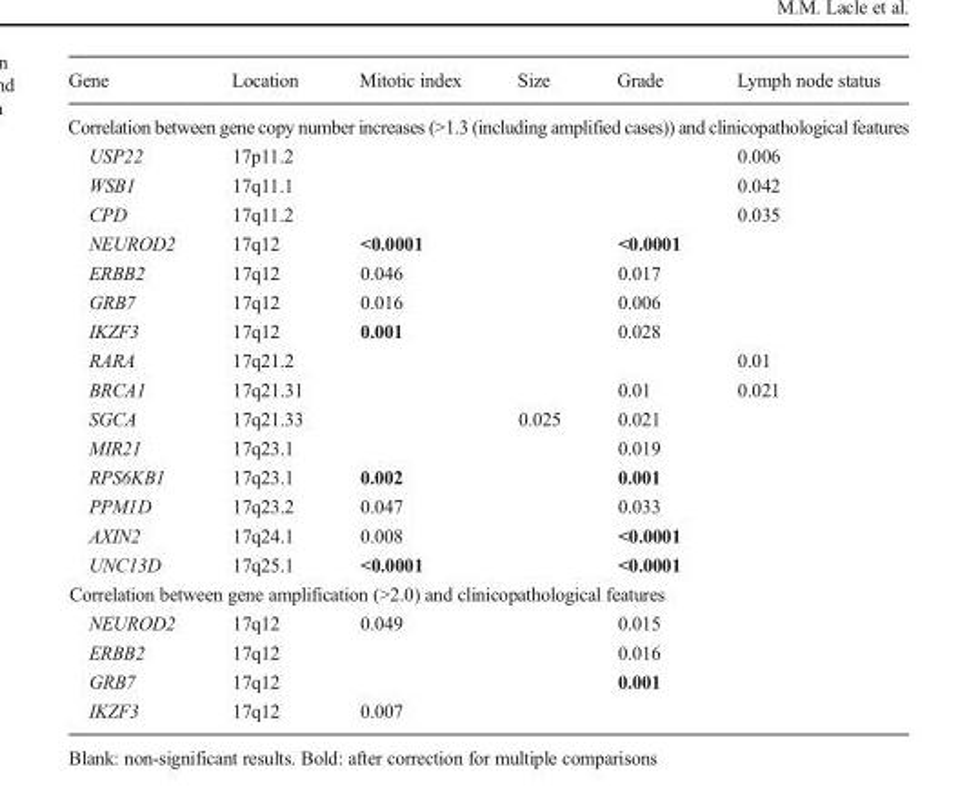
<table><thead><tr><td>Gene</td><td>Location</td><td>Mitotic index</td><td>Size</td><td>Grade</td><td>Lymph node status</td></tr></thead><tbody><tr><td colspan="6">Correlation between gene copy number increases (&gt;1.3 (including amplified cases)) and clinicopathological features</td></tr><tr><td>USP22</td><td>17p11.2</td><td></td><td></td><td></td><td>0.006</td></tr><tr><td>WSB1</td><td>17q11.1</td><td></td><td></td><td></td><td>0.042</td></tr><tr><td>CPD</td><td>17q11.2</td><td></td><td></td><td></td><td>0.035</td></tr><tr><td>NEUROD2</td><td>17q12</td><td>&lt;0.0001</td><td></td><td>&lt;0.0001</td><td></td></tr><tr><td>ERBB2</td><td>17q12</td><td>0.046</td><td></td><td>0.017</td><td></td></tr><tr><td>GRB7</td><td>17q12</td><td>0.016</td><td></td><td>0.006</td><td></td></tr><tr><td>IKZF3</td><td>17q12</td><td>0.001</td><td></td><td>0.028</td><td></td></tr><tr><td>RARA</td><td>17q21.2</td><td></td><td></td><td></td><td>0.01</td></tr><tr><td>BRCA1</td><td>17q21.31</td><td></td><td></td><td>0.01</td><td>0.021</td></tr><tr><td>SGCA</td><td>17q21.33</td><td></td><td>0.025</td><td>0.021</td><td></td></tr><tr><td>MIR21</td><td>17q23.1</td><td></td><td></td><td>0.019</td><td></td></tr><tr><td>RPS6KB1</td><td>17q23.1</td><td>0.002</td><td></td><td>0.001</td><td></td></tr><tr><td>PPM1D</td><td>17q23.2</td><td>0.047</td><td></td><td>0.033</td><td></td></tr><tr><td>AXIN2</td><td>17q24.1</td><td>0.008</td><td></td><td>&lt;0.0001</td><td></td></tr><tr><td>UNC13D</td><td>17q25.1</td><td>&lt;0.0001</td><td></td><td>&lt;0.0001</td><td></td></tr><tr><td colspan="6">Correlation between gene amplification (&gt;2.0) and clinicopathological features</td></tr><tr><td>NEUROD2</td><td>17q12</td><td>0.049</td><td></td><td>0.015</td><td></td></tr><tr><td>ERBB2</td><td>17q12</td><td></td><td></td><td>0.016</td><td></td></tr><tr><td>GRB7</td><td>17q12</td><td></td><td></td><td>0.001</td><td></td></tr><tr><td>IKZF3</td><td>17q12</td><td>0.007</td><td></td><td></td><td></td></tr></tbody></table>